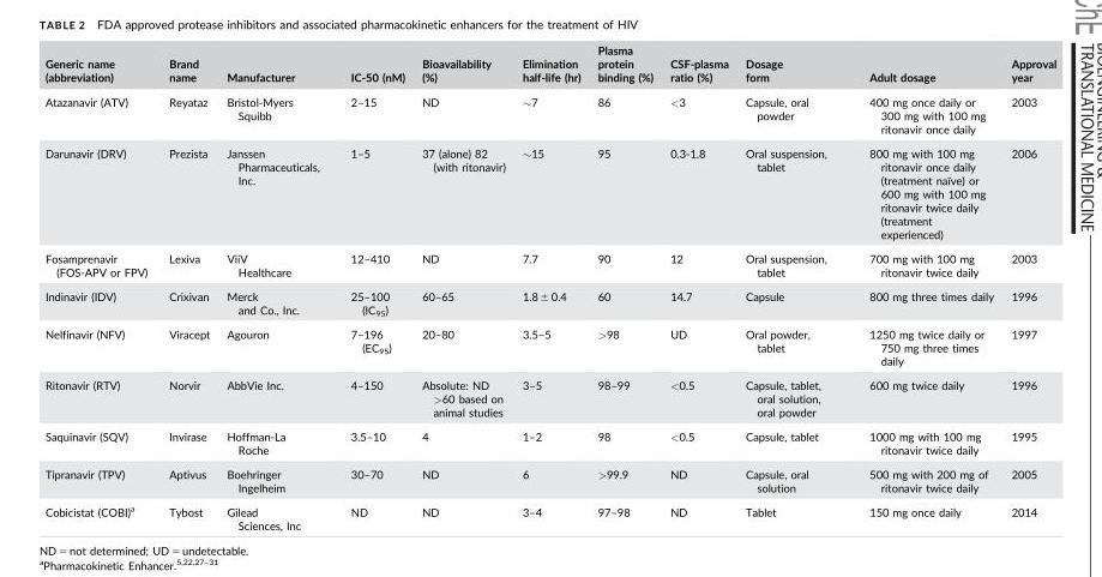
<table><thead><tr><td>Generic name (abbreviation)</td><td>Brand name</td><td>Manufacturer</td><td>IC-50 (nM)</td><td>Bioavailability (%)</td><td>Elimination half-life (hr)</td><td>Plasma protein binding (%)</td><td>CSF-plasma ratio (%)</td><td>Dosage form</td><td>Adult dosage</td><td>Approval year</td></tr></thead><tbody><tr><td>Atazanavir (ATV)</td><td>Reyataz</td><td>Bristol-Myers Squibb</td><td>2–15</td><td>ND</td><td>∼7</td><td>86</td><td>&lt;3</td><td>Capsule, oral powder</td><td>400 mg once daily or 300 mg with 100 mg ritonavir once daily</td><td>2003</td></tr><tr><td>Darunavir (DRV)</td><td>Prezista</td><td>Janssen Pharmaceuticals, Inc.</td><td>1–5</td><td>37 (alone) 82 (with ritonavir)</td><td>∼15</td><td>95</td><td>0.3-1.8</td><td>Oral suspension, tablet</td><td>800 mg with 100 mg ritonavir once daily (treatment naïve) or 600 mg with 100 mg ritonavir twice daily (treatment experienced)</td><td>2006</td></tr><tr><td>Fosamprenavir (FOS-APV or FPV)</td><td>Lexiva</td><td>ViiV Healthcare</td><td>12–410</td><td>ND</td><td>7.7</td><td>90</td><td>12</td><td>Oral suspension, tablet</td><td>700 mg with 100 mg ritonavir twice daily</td><td>2003</td></tr><tr><td>Indinavir (IDV)</td><td>Crixivan</td><td>Merck and Co., Inc.</td><td>25–100 (IC<sub>95</sub>)</td><td>60–65</td><td>1.8 ± 0.4</td><td>60</td><td>14.7</td><td>Capsule</td><td>800 mg three times daily</td><td>1996</td></tr><tr><td>Nelfinavir (NFV)</td><td>Viracept</td><td>Agouron</td><td>7–196 (EC<sub>95</sub>)</td><td>20–80</td><td>3.5–5</td><td>&gt;98</td><td>UD</td><td>Oral powder, tablet</td><td>1250 mg twice daily or 750 mg three times daily</td><td>1997</td></tr><tr><td>Ritonavir (RTV)</td><td>Norvir</td><td>AbbVie Inc.</td><td>4–150</td><td>Absolute: ND &gt;60 based on animal studies</td><td>3–5</td><td>98–99</td><td>&lt;0.5</td><td>Capsule, tablet, oral solution, oral powder</td><td>600 mg twice daily</td><td>1996</td></tr><tr><td>Saquinavir (SQV)</td><td>Invirase</td><td>Hoffman-La Roche</td><td>3.5–10</td><td>4</td><td>1–2</td><td>98</td><td>&lt;0.5</td><td>Capsule, tablet</td><td>1000 mg with 100 mg ritonavir twice daily</td><td>1995</td></tr><tr><td>Tipranavir (TPV)</td><td>Aptivus</td><td>Boehringer Ingelheim</td><td>30–70</td><td>ND</td><td>6</td><td>&gt;99.9</td><td>ND</td><td>Capsule, oral solution</td><td>500 mg with 200 mg of ritonavir twice daily</td><td>2005</td></tr><tr><td>Cobicistat (COBI)<sup>a</sup></td><td>Tybost</td><td>Gilead Sciences, Inc</td><td>ND</td><td>ND</td><td>3–4</td><td>97–98</td><td>ND</td><td>Tablet</td><td>150 mg once daily</td><td>2014</td></tr></tbody></table>